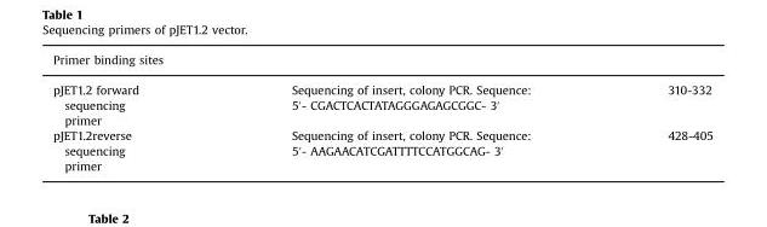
<table><thead><tr><td>Primer binding sites</td><td></td><td></td></tr></thead><tbody><tr><td>pJET1.2 forward sequencing primer</td><td>Sequencing of insert, colony PCR. Sequence: 5′- CGACTCACTATAGGGAGAGCGGC- 3′</td><td>310-332</td></tr><tr><td>pJET1.2reverse sequencing primer</td><td>Sequencing of insert, colony PCR. Sequence: 5′- AAGAACATCGATTTTCCATGGCAG- 3′</td><td>428-405</td></tr></tbody></table>